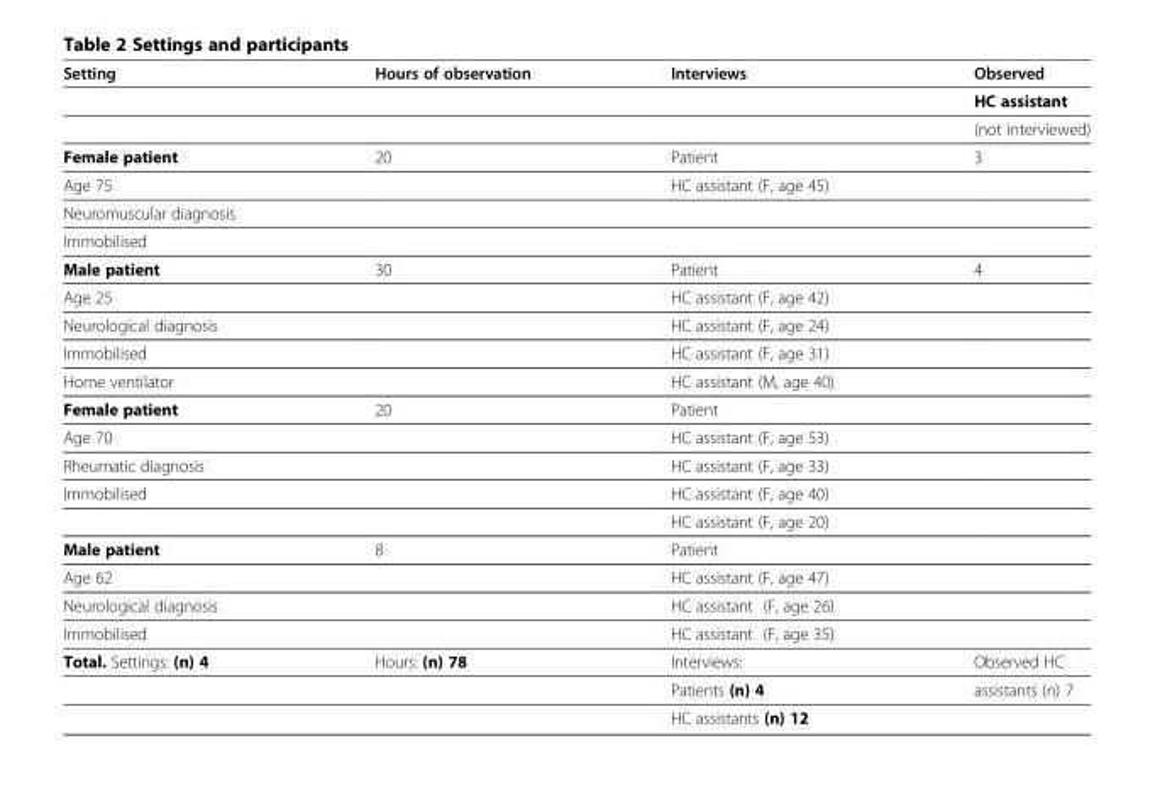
<table><thead><tr><td>Setting</td><td>Hours of observation</td><td>Interviews</td><td>Observed</td></tr></thead><tbody><tr><td></td><td></td><td></td><td>HC assistant</td></tr><tr><td></td><td></td><td></td><td>(not interviewed)</td></tr><tr><td>Female patient</td><td>20</td><td>Patient</td><td>3</td></tr><tr><td>Age 75</td><td></td><td>HC assistant (F, age 45)</td><td></td></tr><tr><td colspan="4">Neuromuscular diagnosis</td></tr><tr><td colspan="4">Immobilised</td></tr><tr><td>Male patient</td><td>30</td><td>Patient</td><td>4</td></tr><tr><td>Age 25</td><td></td><td>HC assistant (F, age 42)</td><td></td></tr><tr><td>Neurological diagnosis</td><td></td><td>HC assistant (F, age 24)</td><td></td></tr><tr><td>Immobilised</td><td></td><td>HC assistant (F, age 31)</td><td></td></tr><tr><td>Home ventilator</td><td></td><td>HC assistant (M, age 40)</td><td></td></tr><tr><td>Female patient</td><td>20</td><td>Patient</td><td></td></tr><tr><td>Age 70</td><td></td><td>HC assistant (F, age 53)</td><td></td></tr><tr><td>Rheumatic diagnosis</td><td></td><td>HC assistant (F, age 33)</td><td></td></tr><tr><td rowspan="2">Immobilised</td><td></td><td>HC assistant (F, age 40)</td><td></td></tr><tr><td></td><td>HC assistant (F, age 20)</td><td></td></tr><tr><td>Male patient</td><td>8</td><td>Patient</td><td></td></tr><tr><td>Age 62</td><td></td><td>HC assistant (F, age 47)</td><td></td></tr><tr><td>Neurological diagnosis</td><td></td><td>HC assistant (F, age 26)</td><td></td></tr><tr><td>Immobilised</td><td></td><td>HC assistant (F, age 35)</td><td></td></tr><tr><td rowspan="3">Total. Settings: (n) 4</td><td>Hours: (n) 78</td><td>Interviews:</td><td>Observed HC</td></tr><tr><td></td><td>Patients (n) 4</td><td>assistants (n) 7</td></tr><tr><td></td><td>HC assistants (n) 12</td><td></td></tr></tbody></table>